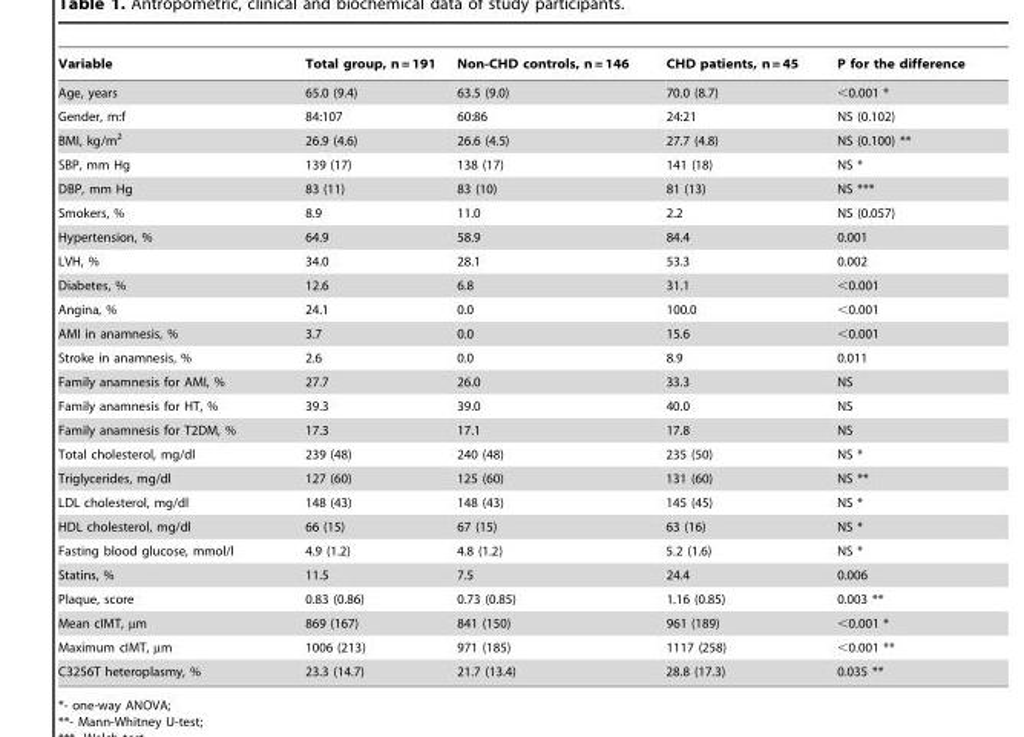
<table><thead><tr><td>Variable</td><td>Total group, n = 191</td><td>Non-CHD controls, n = 146</td><td>CHD patients, n = 45</td><td>P for the difference</td></tr></thead><tbody><tr><td>Age, years</td><td>65.0 (9.4)</td><td>63.5 (9.0)</td><td>70.0 (8.7)</td><td>&lt;0.001 *</td></tr><tr><td>Gender, m:f</td><td>84:107</td><td>60:86</td><td>24:21</td><td>NS (0.102)</td></tr><tr><td>BMI, kg/m<sup>2</sup></td><td>26.9 (4.6)</td><td>26.6 (4.5)</td><td>27.7 (4.8)</td><td>NS (0.100) **</td></tr><tr><td>SBP, mm Hg</td><td>139 (17)</td><td>138 (17)</td><td>141 (18)</td><td>NS *</td></tr><tr><td>DBP, mm Hg</td><td>83 (11)</td><td>83 (10)</td><td>81 (13)</td><td>NS ***</td></tr><tr><td>Smokers, %</td><td>8.9</td><td>11.0</td><td>2.2</td><td>NS (0.057)</td></tr><tr><td>Hypertension, %</td><td>64.9</td><td>58.9</td><td>84.4</td><td>0.001</td></tr><tr><td>LVH, %</td><td>34.0</td><td>28.1</td><td>53.3</td><td>0.002</td></tr><tr><td>Diabetes, %</td><td>12.6</td><td>6.8</td><td>31.1</td><td>&lt;0.001</td></tr><tr><td>Angina, %</td><td>24.1</td><td>0.0</td><td>100.0</td><td>&lt;0.001</td></tr><tr><td>AMI in anamnesis, %</td><td>3.7</td><td>0.0</td><td>15.6</td><td>&lt;0.001</td></tr><tr><td>Stroke in anamnesis, %</td><td>2.6</td><td>0.0</td><td>8.9</td><td>0.011</td></tr><tr><td>Family anamnesis for AMI, %</td><td>27.7</td><td>26.0</td><td>33.3</td><td>NS</td></tr><tr><td>Family anamnesis for HT, %</td><td>39.3</td><td>39.0</td><td>40.0</td><td>NS</td></tr><tr><td>Family anamnesis for T2DM, %</td><td>17.3</td><td>17.1</td><td>17.8</td><td>NS</td></tr><tr><td>Total cholesterol, mg/dl</td><td>239 (48)</td><td>240 (48)</td><td>235 (50)</td><td>NS *</td></tr><tr><td>Triglycerides, mg/dl</td><td>127 (60)</td><td>125 (60)</td><td>131 (60)</td><td>NS **</td></tr><tr><td>LDL cholesterol, mg/dl</td><td>148 (43)</td><td>148 (43)</td><td>145 (45)</td><td>NS *</td></tr><tr><td>HDL cholesterol, mg/dl</td><td>66 (15)</td><td>67 (15)</td><td>63 (16)</td><td>NS *</td></tr><tr><td>Fasting blood glucose, mmol/l</td><td>4.9 (1.2)</td><td>4.8 (1.2)</td><td>5.2 (1.6)</td><td>NS *</td></tr><tr><td>Statins, %</td><td>11.5</td><td>7.5</td><td>24.4</td><td>0.006</td></tr><tr><td>Plaque, score</td><td>0.83 (0.86)</td><td>0.73 (0.85)</td><td>1.16 (0.85)</td><td>0.003 **</td></tr><tr><td>Mean cIMT, µm</td><td>869 (167)</td><td>841 (150)</td><td>961 (189)</td><td>&lt;0.001 *</td></tr><tr><td>Maximum cIMT, µm</td><td>1006 (213)</td><td>971 (185)</td><td>1117 (258)</td><td>&lt;0.001 **</td></tr><tr><td>C3256T heteroplasmy, %</td><td>23.3 (14.7)</td><td>21.7 (13.4)</td><td>28.8 (17.3)</td><td>0.035 **</td></tr></tbody></table>